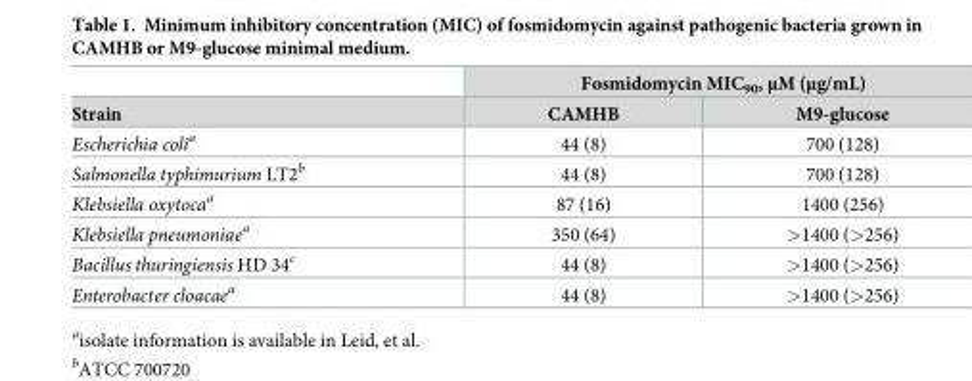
<table><thead><tr><td rowspan="2">Strain</td><td colspan="2">Fosmidomycin MIC<sub>90</sub>, μM (μg/mL)</td></tr><tr><td>CAMHB</td><td>M9-glucose</td></tr></thead><tbody><tr><td>Escherichia coli<sup>a</sup></td><td>44 (8)</td><td>700 (128)</td></tr><tr><td>Salmonella typhimurium LT2<sup>b</sup></td><td>44 (8)</td><td>700 (128)</td></tr><tr><td>Klebsiella oxytoca<sup>a</sup></td><td>87 (16)</td><td>1400 (256)</td></tr><tr><td>Klebsiella pneumoniae<sup>a</sup></td><td>350 (64)</td><td>&gt;1400 (&gt;256)</td></tr><tr><td>Bacillus thuringiensis HD 34<sup>c</sup></td><td>44 (8)</td><td>&gt;1400 (&gt;256)</td></tr><tr><td>Enterobacter cloacae<sup>a</sup></td><td>44 (8)</td><td>&gt;1400 (&gt;256)</td></tr></tbody></table>